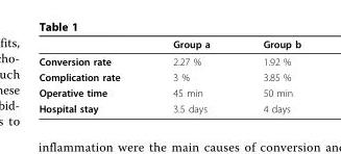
<table><thead><tr><td></td><td>Group a</td><td>Group b</td></tr></thead><tbody><tr><td>Conversion rate</td><td>2.27 %</td><td>1.92 %</td></tr><tr><td>Complication rate</td><td>3 %</td><td>3.85 %</td></tr><tr><td>Operative time</td><td>45 min</td><td>50 min</td></tr><tr><td>Hospital stay</td><td>3.5 days</td><td>4 days</td></tr></tbody></table>